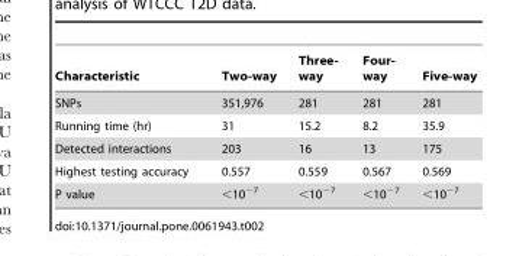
<table><thead><tr><td>Characteristic</td><td>Two-way</td><td>Three- way</td><td>Four- way</td><td>Five-way</td></tr></thead><tbody><tr><td>SNPs</td><td>351,976</td><td>281</td><td>281</td><td>281</td></tr><tr><td>Running time (hr)</td><td>31</td><td>15.2</td><td>8.2</td><td>35.9</td></tr><tr><td>Detected interactions</td><td>203</td><td>16</td><td>13</td><td>175</td></tr><tr><td>Highest testing accuracy</td><td>0.557</td><td>0.559</td><td>0.567</td><td>0.569</td></tr><tr><td>P value</td><td>&lt;10<sup>−7</sup></td><td>&lt;10<sup>−7</sup></td><td>&lt;10<sup>−7</sup></td><td>&lt;10<sup>−7</sup></td></tr></tbody></table>